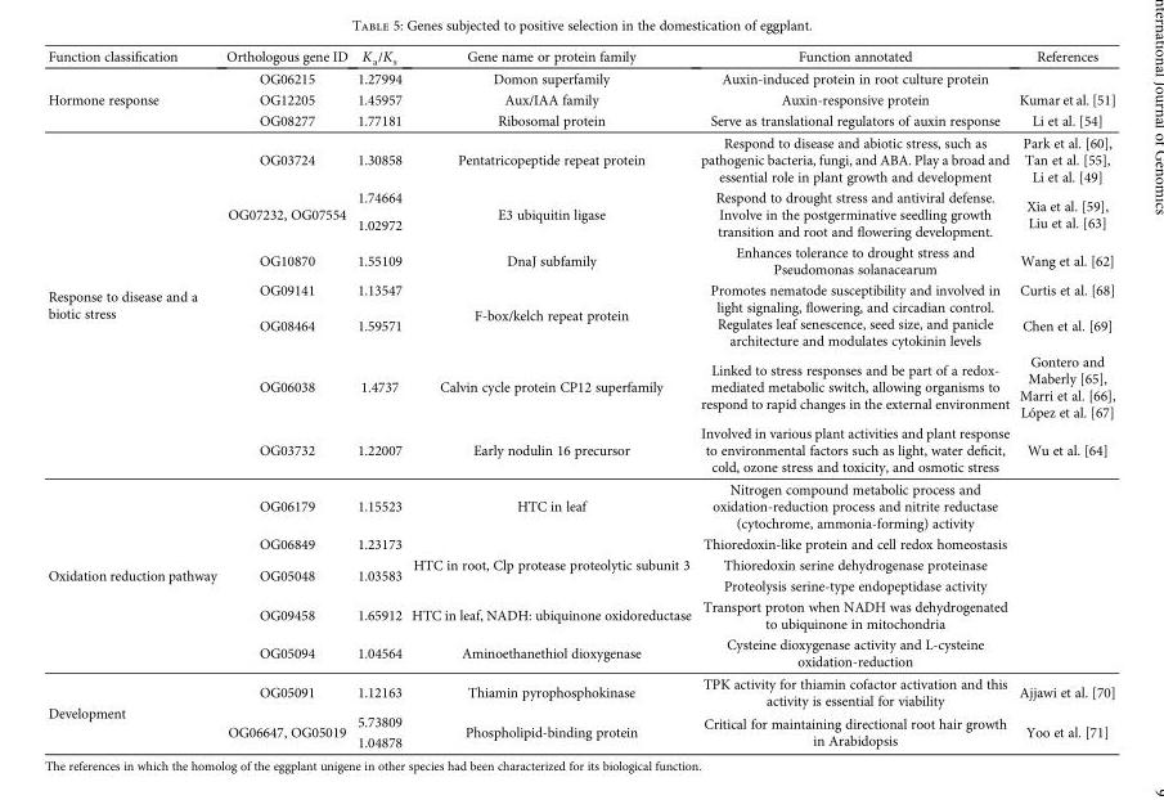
<table><thead><tr><td>Function classification</td><td>Orthologous gene ID</td><td>K<sub>a</sub>/K<sub>s</sub></td><td>Gene name or protein family</td><td>Function annotated</td><td>References</td></tr></thead><tbody><tr><td rowspan="3">Hormone response</td><td>OG06215</td><td>1.27994</td><td>Domon superfamily</td><td>Auxin-induced protein in root culture protein</td><td></td></tr><tr><td>OG12205</td><td>1.45957</td><td>Aux/IAA family</td><td>Auxin-responsive protein</td><td>Kumar et al. [51]</td></tr><tr><td>OG08277</td><td>1.77181</td><td>Ribosomal protein</td><td>Serve as translational regulators of auxin response</td><td>Li et al. [54]</td></tr><tr><td rowspan="8">Response to disease and a biotic stress</td><td>OG03724</td><td>1.30858</td><td>Pentatricopeptide repeat protein</td><td>Respond to disease and abiotic stress, such as pathogenic bacteria, fungi, and ABA. Play a broad and essential role in plant growth and development</td><td>Park et al. [60], Tan et al. [55], Li et al. [49]</td></tr><tr><td rowspan="2">OG07232, OG07554</td><td>1.74664</td><td rowspan="2">E3 ubiquitin ligase</td><td rowspan="2">Respond to drought stress and antiviral defense. Involve in the postgerminative seedling growth transition and root and flowering development.</td><td rowspan="2">Xia et al. [59], Liu et al. [63]</td></tr><tr><td>1.02972</td></tr><tr><td>OG10870</td><td>1.55109</td><td>DnaJ subfamily</td><td>Enhances tolerance to drought stress and Pseudomonas solanacearum</td><td>Wang et al. [62]</td></tr><tr><td>OG09141</td><td>1.13547</td><td rowspan="2">F-box/kelch repeat protein</td><td rowspan="2">Promotes nematode susceptibility and involved in light signaling, flowering, and circadian control. Regulates leaf senescence, seed size, and panicle architecture and modulates cytokinin levels</td><td>Curtis et al. [68]</td></tr><tr><td>OG08464</td><td>1.59571</td><td>Chen et al. [69]</td></tr><tr><td>OG06038</td><td>1.4737</td><td>Calvin cycle protein CP12 superfamily</td><td>Linked to stress responses and be part of a redox- mediated metabolic switch, allowing organisms to respond to rapid changes in the external environment</td><td>Gontero and Maberly [65], Marri et al. [66], López et al. [67]</td></tr><tr><td>OG03732</td><td>1.22007</td><td>Early nodulin 16 precursor</td><td>Involved in various plant activities and plant response to environmental factors such as light, water deficit, cold, ozone stress and toxicity, and osmotic stress</td><td>Wu et al. [64]</td></tr><tr><td rowspan="6">Oxidation reduction pathway</td><td>OG06179</td><td>1.15523</td><td>HTC in leaf</td><td>Nitrogen compound metabolic process and oxidation-reduction process and nitrite reductase (cytochrome, ammonia-forming) activity</td><td></td></tr><tr><td>OG06849</td><td>1.23173</td><td rowspan="3">HTC in root, Clp protease proteolytic subunit 3</td><td>Thioredoxin-like protein and cell redox homeostasis</td><td rowspan="3"></td></tr><tr><td rowspan="2">OG05048</td><td rowspan="2">1.03583</td><td>Thioredoxin serine dehydrogenase proteinase</td></tr><tr><td>Proteolysis serine-type endopeptidase activity</td></tr><tr><td>OG09458</td><td>1.65912</td><td>HTC in leaf, NADH: ubiquinone oxidoreductase</td><td>Transport proton when NADH was dehydrogenated to ubiquinone in mitochondria</td><td></td></tr><tr><td>OG05094</td><td>1.04564</td><td>Aminoethanethiol dioxygenase</td><td>Cysteine dioxygenase activity and L-cysteine oxidation-reduction</td><td></td></tr><tr><td rowspan="3">Development</td><td>OG05091</td><td>1.12163</td><td>Thiamin pyrophosphokinase</td><td>TPK activity for thiamin cofactor activation and this activity is essential for viability</td><td>Ajjawi et al. [70]</td></tr><tr><td rowspan="2">OG06647, OG05019</td><td>5.73809</td><td rowspan="2">Phospholipid-binding protein</td><td rowspan="2">Critical for maintaining directional root hair growth in Arabidopsis</td><td rowspan="2">Yoo et al. [71]</td></tr><tr><td>1.04878</td></tr></tbody></table>